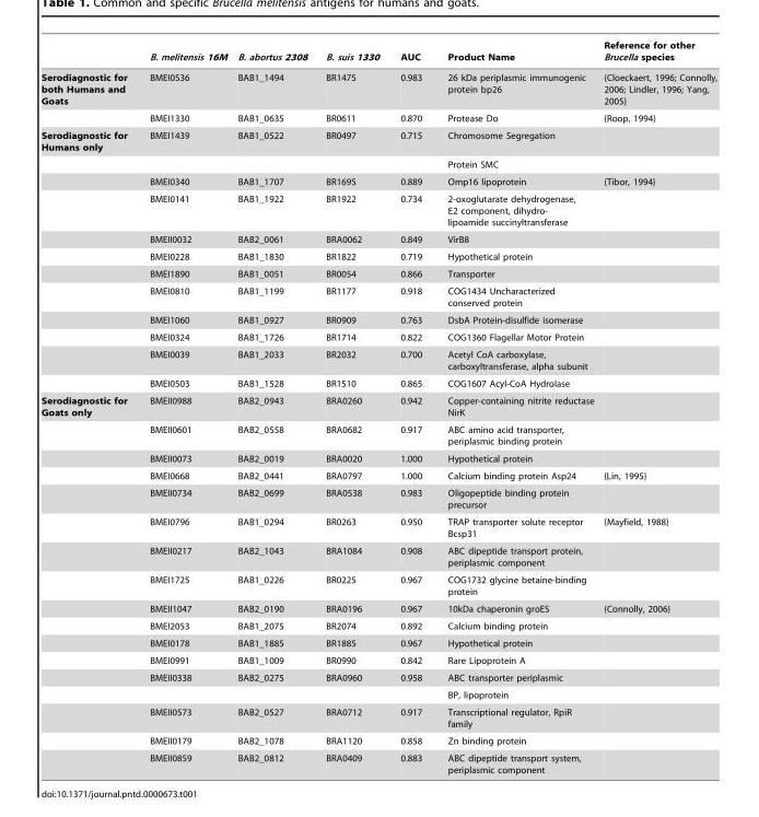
<table><thead><tr><td></td><td>B. melitensis 16M</td><td>B. abortus 2308</td><td>B. suis 1330</td><td>AUC</td><td>Product Name</td><td>Reference for other Brucella species</td></tr></thead><tbody><tr><td rowspan="2">Serodiagnostic for both Humans and Goats</td><td>BMEI0536</td><td>BAB1_1494</td><td>BR1475</td><td>0.983</td><td>26 kDa periplasmic immunogenic protein bp26</td><td>{Cloeckaert, 1996; Connolly, 2006; Lindler, 1996; Yang, 2005}</td></tr><tr><td>BMEI1330</td><td>BAB1_0635</td><td>BR0611</td><td>0.870</td><td>Protease Do</td><td>{Roop, 1994}</td></tr><tr><td rowspan="12">Serodiagnostic for Humans only</td><td>BMEI1439</td><td>BAB1_0522</td><td>BR0497</td><td>0.715</td><td>Chromosome Segregation</td><td></td></tr><tr><td></td><td></td><td></td><td></td><td>Protein SMC</td><td></td></tr><tr><td>BMEI0340</td><td>BAB1_1707</td><td>BR1695</td><td>0.889</td><td>Omp16 lipoprotein</td><td>{Tibor, 1994}</td></tr><tr><td>BMEI0141</td><td>BAB1_1922</td><td>BR1922</td><td>0.734</td><td>2-oxoglutarate dehydrogenase, E2 component, dihydro- lipoamide succinyltransferase</td><td></td></tr><tr><td>BMEII0032</td><td>BAB2_0061</td><td>BRA0062</td><td>0.849</td><td>VirB8</td><td></td></tr><tr><td>BMEI0228</td><td>BAB1_1830</td><td>BR1822</td><td>0.719</td><td>Hypothetical protein</td><td></td></tr><tr><td>BMEI1890</td><td>BAB1_0051</td><td>BR0054</td><td>0.866</td><td>Transporter</td><td></td></tr><tr><td>BMEI0810</td><td>BAB1_1199</td><td>BR1177</td><td>0.918</td><td>COG1434 Uncharacterized conserved protein</td><td></td></tr><tr><td>BMEI1060</td><td>BAB1_0927</td><td>BR0909</td><td>0.763</td><td>DsbA Protein-disulfide isomerase</td><td></td></tr><tr><td>BMEI0324</td><td>BAB1_1726</td><td>BR1714</td><td>0.822</td><td>COG1360 Flagellar Motor Protein</td><td></td></tr><tr><td>BMEI0039</td><td>BAB1_2033</td><td>BR2032</td><td>0.700</td><td>Acetyl CoA carboxylase, carboxyltransferase, alpha subunit</td><td></td></tr><tr><td>BMEI0503</td><td>BAB1_1528</td><td>BR1510</td><td>0.865</td><td>COG1607 Acyl-CoA Hydrolase</td><td></td></tr><tr><td rowspan="17">Serodiagnostic for Goats only</td><td>BMEII0988</td><td>BAB2_0943</td><td>BRA0260</td><td>0.942</td><td>Copper-containing nitrite reductase NirK</td><td></td></tr><tr><td>BMEII0601</td><td>BAB2_0558</td><td>BRA0682</td><td>0.917</td><td>ABC amino acid transporter, periplasmic binding protein</td><td></td></tr><tr><td>BMEII0073</td><td>BAB2_0019</td><td>BRA0020</td><td>1.000</td><td>Hypothetical protein</td><td></td></tr><tr><td>BMEI0668</td><td>BAB2_0441</td><td>BRA0797</td><td>1.000</td><td>Calcium binding protein Asp24</td><td>{Lin, 1995}</td></tr><tr><td>BMEII0734</td><td>BAB2_0699</td><td>BRA0538</td><td>0.983</td><td>Oligopeptide binding protein precursor</td><td></td></tr><tr><td>BMEI0796</td><td>BAB1_0294</td><td>BR0263</td><td>0.950</td><td>TRAP transporter solute receptor Bcsp31</td><td>{Mayfield, 1988}</td></tr><tr><td>BMEII0217</td><td>BAB2_1043</td><td>BRA1084</td><td>0.908</td><td>ABC dipeptide transport protein, periplasmic component</td><td></td></tr><tr><td>BMEI1725</td><td>BAB1_0226</td><td>BR0225</td><td>0.967</td><td>COG1732 glycine betaine-binding protein</td><td></td></tr><tr><td>BMEII1047</td><td>BAB2_0190</td><td>BRA0196</td><td>0.967</td><td>10kDa chaperonin groES</td><td>{Connolly, 2006}</td></tr><tr><td>BMEI2053</td><td>BAB1_2075</td><td>BR2074</td><td>0.892</td><td>Calcium binding protein</td><td></td></tr><tr><td>BMEI0178</td><td>BAB1_1885</td><td>BR1885</td><td>0.967</td><td>Hypothetical protein</td><td></td></tr><tr><td>BMEI0991</td><td>BAB1_1009</td><td>BR0990</td><td>0.842</td><td>Rare Lipoprotein A</td><td></td></tr><tr><td>BMEII0338</td><td>BAB2_0275</td><td>BRA0960</td><td>0.958</td><td>ABC transporter periplasmic</td><td></td></tr><tr><td></td><td></td><td></td><td></td><td>BP, lipoprotein</td><td></td></tr><tr><td>BMEII0573</td><td>BAB2_0527</td><td>BRA0712</td><td>0.917</td><td>Transcriptional regulator, RpiR family</td><td></td></tr><tr><td>BMEII0179</td><td>BAB2_1078</td><td>BRA1120</td><td>0.858</td><td>Zn binding protein</td><td></td></tr><tr><td>BMEII0859</td><td>BAB2_0812</td><td>BRA0409</td><td>0.883</td><td>ABC dipeptide transport system, periplasmic component</td><td></td></tr></tbody></table>